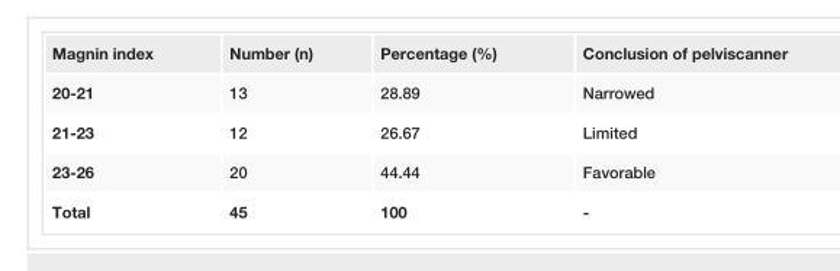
<table><tbody><tr><td>Magnin index</td><td>Number (n)</td><td>Percentage (%)</td><td>Conclusion of pelviscanner</td></tr><tr><td>20-21</td><td>13</td><td>28.89</td><td>Narrowed</td></tr><tr><td>21-23</td><td>12</td><td>26.67</td><td>Limited</td></tr><tr><td>23-26</td><td>20</td><td>44.44</td><td>Favorable</td></tr><tr><td>Total</td><td>45</td><td>100</td><td>-</td></tr></tbody></table>